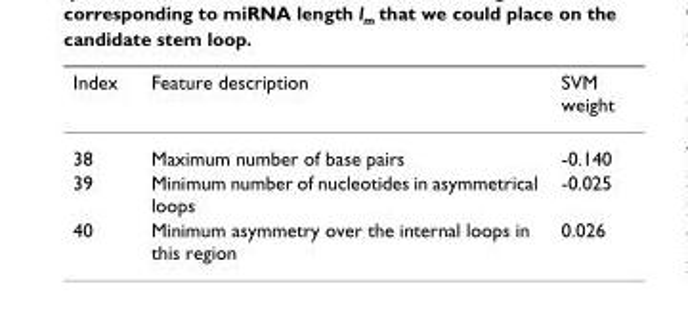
<table><thead><tr><td>Index</td><td>Feature description</td><td>SVM weight</td></tr></thead><tbody><tr><td>38</td><td>Maximum number of base pairs</td><td>-0.140</td></tr><tr><td>39</td><td>Minimum number of nucleotides in asymmetrical loops</td><td>-0.025</td></tr><tr><td>40</td><td>Minimum asymmetry over the internal loops in this region</td><td>0.026</td></tr></tbody></table>